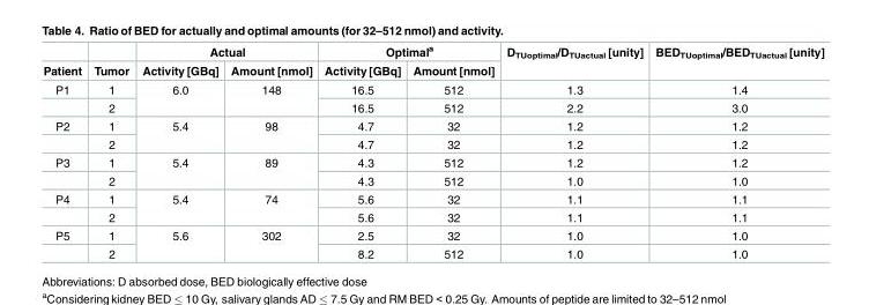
<table><thead><tr><td rowspan="2">Patient</td><td rowspan="2">Tumor</td><td colspan="2">Actual</td><td colspan="2">Optimal<sup>a</sup></td><td rowspan="2">D<sub>TUoptimal</sub>/D<sub>TUactual</sub> [unity]</td><td rowspan="2">BED<sub>TUoptimal</sub>/BED<sub>TUactual</sub> [unity]</td></tr><tr><td>Activity [GBq]</td><td>Amount [nmol]</td><td>Activity [GBq]</td><td>Amount [nmol]</td></tr></thead><tbody><tr><td rowspan="2">P1</td><td>1</td><td rowspan="2">6.0</td><td rowspan="2">148</td><td>16.5</td><td>512</td><td>1.3</td><td>1.4</td></tr><tr><td>2</td><td>16.5</td><td>512</td><td>2.2</td><td>3.0</td></tr><tr><td rowspan="2">P2</td><td>1</td><td rowspan="2">5.4</td><td rowspan="2">98</td><td>4.7</td><td>32</td><td>1.2</td><td>1.2</td></tr><tr><td>2</td><td>4.7</td><td>32</td><td>1.2</td><td>1.2</td></tr><tr><td rowspan="2">P3</td><td>1</td><td rowspan="2">5.4</td><td rowspan="2">89</td><td>4.3</td><td>512</td><td>1.2</td><td>1.2</td></tr><tr><td>2</td><td>4.3</td><td>512</td><td>1.0</td><td>1.0</td></tr><tr><td rowspan="2">P4</td><td>1</td><td rowspan="2">5.4</td><td rowspan="2">74</td><td>5.6</td><td>32</td><td>1.1</td><td>1.1</td></tr><tr><td>2</td><td>5.6</td><td>32</td><td>1.1</td><td>1.1</td></tr><tr><td rowspan="2">P5</td><td>1</td><td rowspan="2">5.6</td><td rowspan="2">302</td><td>2.5</td><td>32</td><td>1.0</td><td>1.0</td></tr><tr><td>2</td><td>8.2</td><td>512</td><td>1.0</td><td>1.0</td></tr></tbody></table>